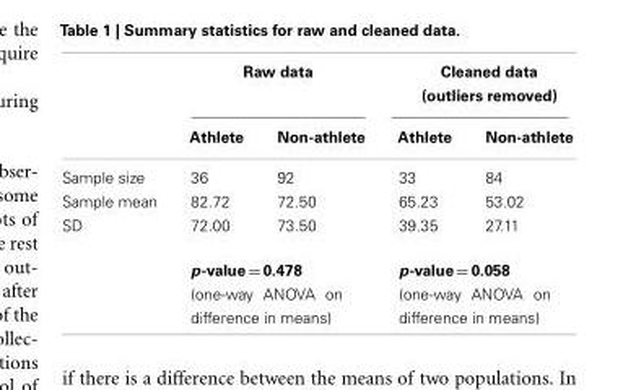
<table><thead><tr><td rowspan="2"></td><td colspan="2">Raw data</td><td colspan="2">Cleaned data (outliers removed)</td></tr><tr><td>Athlete</td><td>Non-athlete</td><td>Athlete</td><td>Non-athlete</td></tr></thead><tbody><tr><td>Sample size</td><td>36</td><td>92</td><td>33</td><td>84</td></tr><tr><td>Sample mean</td><td>82.72</td><td>72.50</td><td>65.23</td><td>53.02</td></tr><tr><td rowspan="2">SD</td><td>72.00</td><td>73.50</td><td>39.35</td><td>27.11</td></tr><tr><td colspan="2">p-value = 0.478 (one-way ANOVA on difference in means)</td><td colspan="2">p-value = 0.058 (one-way ANOVA on difference in means)</td></tr></tbody></table>